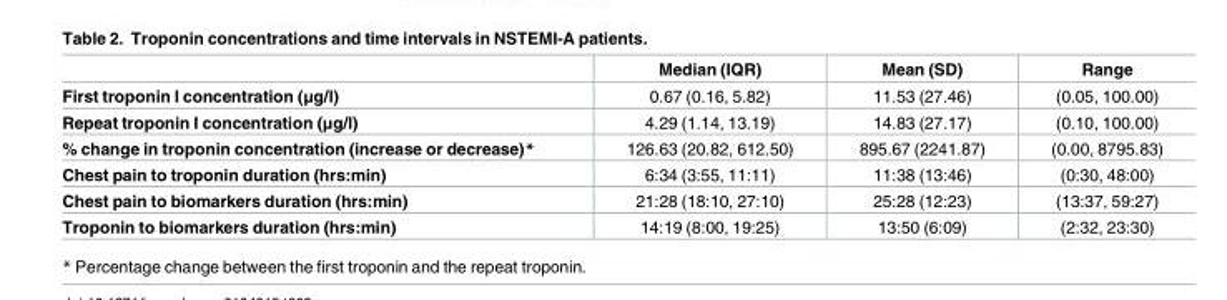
<table><thead><tr><td></td><td>Median (IQR)</td><td>Mean (SD)</td><td>Range</td></tr></thead><tbody><tr><td>First troponin I concentration (μg/l)</td><td>0.67 (0.16, 5.82)</td><td>11.53 (27.46)</td><td>(0.05, 100.00)</td></tr><tr><td>Repeat troponin I concentration (μg/l)</td><td>4.29 (1.14, 13.19)</td><td>14.83 (27.17)</td><td>(0.10, 100.00)</td></tr><tr><td>% change in troponin concentration (increase or decrease)*</td><td>126.63 (20.82, 612.50)</td><td>895.67 (2241.87)</td><td>(0.00, 8795.83)</td></tr><tr><td>Chest pain to troponin duration (hrs:min)</td><td>6:34 (3:55, 11:11)</td><td>11:38 (13:46)</td><td>(0:30, 48:00)</td></tr><tr><td>Chest pain to biomarkers duration (hrs:min)</td><td>21:28 (18:10, 27:10)</td><td>25:28 (12:23)</td><td>(13:37, 59:27)</td></tr><tr><td>Troponin to biomarkers duration (hrs:min)</td><td>14:19 (8:00, 19:25)</td><td>13:50 (6:09)</td><td>(2:32, 23:30)</td></tr></tbody></table>